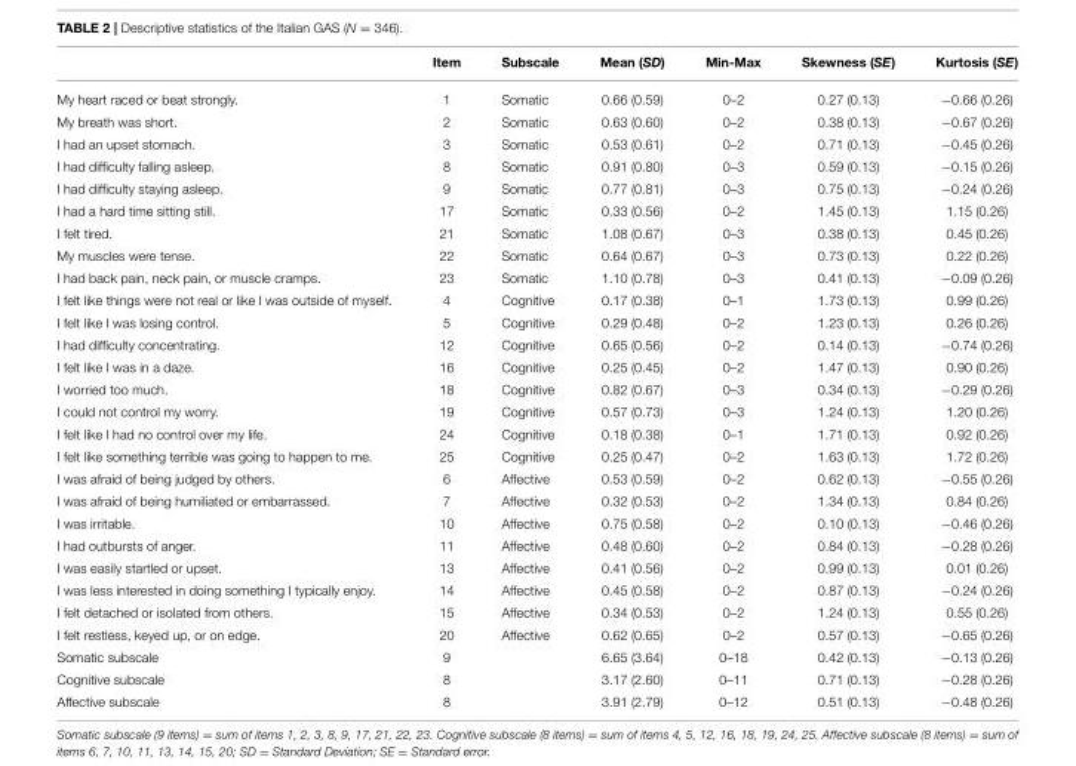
<table><thead><tr><td></td><td>Item</td><td>Subscale</td><td>Mean (SD)</td><td>Min-Max</td><td>Skewness (SE)</td><td>Kurtosis (SE)</td></tr></thead><tbody><tr><td>My heart raced or beat strongly.</td><td>1</td><td>Somatic</td><td>0.66 (0.59)</td><td>0–2</td><td>0.27 (0.13)</td><td>−0.66 (0.26)</td></tr><tr><td>My breath was short.</td><td>2</td><td>Somatic</td><td>0.63 (0.60)</td><td>0–2</td><td>0.38 (0.13)</td><td>−0.67 (0.26)</td></tr><tr><td>I had an upset stomach.</td><td>3</td><td>Somatic</td><td>0.53 (0.61)</td><td>0–2</td><td>0.71 (0.13)</td><td>−0.45 (0.26)</td></tr><tr><td>I had difficulty falling asleep.</td><td>8</td><td>Somatic</td><td>0.91 (0.80)</td><td>0–3</td><td>0.59 (0.13)</td><td>−0.15 (0.26)</td></tr><tr><td>I had difficulty staying asleep.</td><td>9</td><td>Somatic</td><td>0.77 (0.81)</td><td>0–3</td><td>0.75 (0.13)</td><td>−0.24 (0.26)</td></tr><tr><td>I had a hard time sitting still.</td><td>17</td><td>Somatic</td><td>0.33 (0.56)</td><td>0–2</td><td>1.45 (0.13)</td><td>1.15 (0.26)</td></tr><tr><td>I felt tired.</td><td>21</td><td>Somatic</td><td>1.08 (0.67)</td><td>0–3</td><td>0.38 (0.13)</td><td>0.45 (0.26)</td></tr><tr><td>My muscles were tense.</td><td>22</td><td>Somatic</td><td>0.64 (0.67)</td><td>0–3</td><td>0.73 (0.13)</td><td>0.22 (0.26)</td></tr><tr><td>I had back pain, neck pain, or muscle cramps.</td><td>23</td><td>Somatic</td><td>1.10 (0.78)</td><td>0–3</td><td>0.41 (0.13)</td><td>−0.09 (0.26)</td></tr><tr><td>I felt like things were not real or like I was outside of myself.</td><td>4</td><td>Cognitive</td><td>0.17 (0.38)</td><td>0–1</td><td>1.73 (0.13)</td><td>0.99 (0.26)</td></tr><tr><td>I felt like I was losing control.</td><td>5</td><td>Cognitive</td><td>0.29 (0.48)</td><td>0–2</td><td>1.23 (0.13)</td><td>0.26 (0.26)</td></tr><tr><td>I had difficulty concentrating.</td><td>12</td><td>Cognitive</td><td>0.65 (0.56)</td><td>0–2</td><td>0.14 (0.13)</td><td>−0.74 (0.26)</td></tr><tr><td>I felt like I was in a daze.</td><td>16</td><td>Cognitive</td><td>0.25 (0.45)</td><td>0–2</td><td>1.47 (0.13)</td><td>0.90 (0.26)</td></tr><tr><td>I worried too much.</td><td>18</td><td>Cognitive</td><td>0.82 (0.67)</td><td>0–3</td><td>0.34 (0.13)</td><td>−0.29 (0.26)</td></tr><tr><td>I could not control my worry.</td><td>19</td><td>Cognitive</td><td>0.57 (0.73)</td><td>0–3</td><td>1.24 (0.13)</td><td>1.20 (0.26)</td></tr><tr><td>I felt like I had no control over my life.</td><td>24</td><td>Cognitive</td><td>0.18 (0.38)</td><td>0–1</td><td>1.71 (0.13)</td><td>0.92 (0.26)</td></tr><tr><td>I felt like something terrible was going to happen to me.</td><td>25</td><td>Cognitive</td><td>0.25 (0.47)</td><td>0–2</td><td>1.63 (0.13)</td><td>1.72 (0.26)</td></tr><tr><td>I was afraid of being judged by others.</td><td>6</td><td>Affective</td><td>0.53 (0.59)</td><td>0–2</td><td>0.62 (0.13)</td><td>−0.55 (0.26)</td></tr><tr><td>I was afraid of being humiliated or embarrassed.</td><td>7</td><td>Affective</td><td>0.32 (0.53)</td><td>0–2</td><td>1.34 (0.13)</td><td>0.84 (0.26)</td></tr><tr><td>I was irritable.</td><td>10</td><td>Affective</td><td>0.75 (0.58)</td><td>0–2</td><td>0.10 (0.13)</td><td>−0.46 (0.26)</td></tr><tr><td>I had outbursts of anger.</td><td>11</td><td>Affective</td><td>0.48 (0.60)</td><td>0–2</td><td>0.84 (0.13)</td><td>−0.28 (0.26)</td></tr><tr><td>I was easily startled or upset.</td><td>13</td><td>Affective</td><td>0.41 (0.56)</td><td>0–2</td><td>0.99 (0.13)</td><td>0.01 (0.26)</td></tr><tr><td>I was less interested in doing something I typically enjoy.</td><td>14</td><td>Affective</td><td>0.45 (0.58)</td><td>0–2</td><td>0.87 (0.13)</td><td>−0.24 (0.26)</td></tr><tr><td>I felt detached or isolated from others.</td><td>15</td><td>Affective</td><td>0.34 (0.53)</td><td>0–2</td><td>1.24 (0.13)</td><td>0.55 (0.26)</td></tr><tr><td>I felt restless, keyed up, or on edge.</td><td>20</td><td>Affective</td><td>0.62 (0.65)</td><td>0–2</td><td>0.57 (0.13)</td><td>−0.65 (0.26)</td></tr><tr><td>Somatic subscale</td><td>9</td><td></td><td>6.65 (3.64)</td><td>0–18</td><td>0.42 (0.13)</td><td>−0.13 (0.26)</td></tr><tr><td>Cognitive subscale</td><td>8</td><td></td><td>3.17 (2.60)</td><td>0–11</td><td>0.71 (0.13)</td><td>−0.28 (0.26)</td></tr><tr><td>Affective subscale</td><td>8</td><td></td><td>3.91 (2.79)</td><td>0–12</td><td>0.51 (0.13)</td><td>−0.48 (0.26)</td></tr></tbody></table>